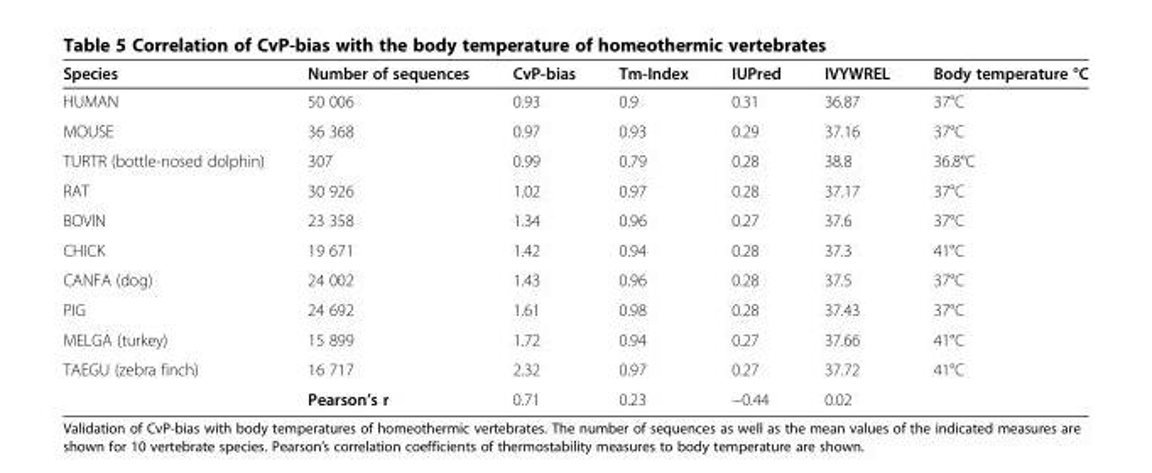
<table><thead><tr><td>Species</td><td>Number of sequences</td><td>CvP-bias</td><td>Tm-Index</td><td>IUPred</td><td>IVYWREL</td><td>Body temperature °C</td></tr></thead><tbody><tr><td>HUMAN</td><td>50 006</td><td>0.93</td><td>0.9</td><td>0.31</td><td>36.87</td><td>37°C</td></tr><tr><td>MOUSE</td><td>36 368</td><td>0.97</td><td>0.93</td><td>0.29</td><td>37.16</td><td>37°C</td></tr><tr><td>TURTR (bottle-nosed dolphin)</td><td>307</td><td>0.99</td><td>0.79</td><td>0.28</td><td>38.8</td><td>36.8°C</td></tr><tr><td>RAT</td><td>30 926</td><td>1.02</td><td>0.97</td><td>0.28</td><td>37.17</td><td>37°C</td></tr><tr><td>BOVIN</td><td>23 358</td><td>1.34</td><td>0.96</td><td>0.27</td><td>37.6</td><td>37°C</td></tr><tr><td>CHICK</td><td>19 671</td><td>1.42</td><td>0.94</td><td>0.28</td><td>37.3</td><td>41°C</td></tr><tr><td>CANFA (dog)</td><td>24 002</td><td>1.43</td><td>0.96</td><td>0.28</td><td>37.5</td><td>37°C</td></tr><tr><td>PIG</td><td>24 692</td><td>1.61</td><td>0.98</td><td>0.28</td><td>37.43</td><td>37°C</td></tr><tr><td>MELGA (turkey)</td><td>15 899</td><td>1.72</td><td>0.94</td><td>0.27</td><td>37.66</td><td>41°C</td></tr><tr><td rowspan="2">TAEGU (zebra finch)</td><td>16 717</td><td>2.32</td><td>0.97</td><td>0.27</td><td>37.72</td><td>41°C</td></tr><tr><td>Pearson’s r</td><td>0.71</td><td>0.23</td><td>−0.44</td><td>0.02</td><td></td></tr></tbody></table>